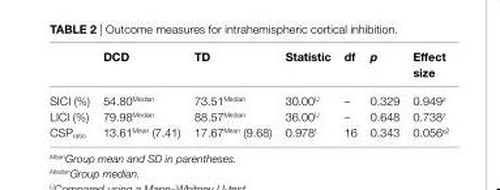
<table><thead><tr><td></td><td>DcD</td><td>TD</td><td>statistic</td><td>df</td><td>p</td><td>effect size</td></tr></thead><tbody><tr><td>SICI (%)</td><td>54.80<sup>Median</sup></td><td>73.51<sup>Median</sup></td><td>30.00<sup>U</sup></td><td>–</td><td>0.329</td><td>0.949<sup>z</sup></td></tr><tr><td>LICI (%)</td><td>79.98<sup>Median</sup></td><td>88.57<sup>Median</sup></td><td>36.00<sup>U</sup></td><td>–</td><td>0.648</td><td>0.738<sup>z</sup></td></tr><tr><td>CSP<sub>ratio</sub></td><td>13.61<sup>Mean</sup> (7.41)</td><td>17.67<sup>Mean</sup> (9.68)</td><td>0.978<sup>t</sup></td><td>16</td><td>0.343</td><td>0.056<sup>η2</sup></td></tr></tbody></table>